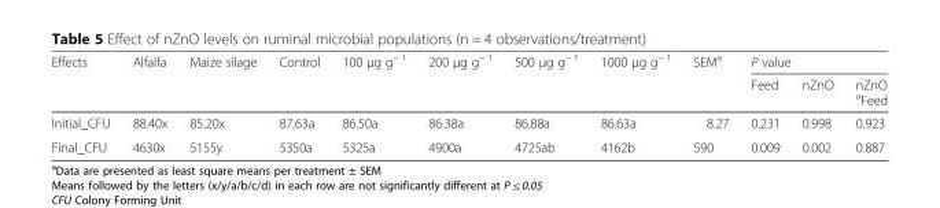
<table><thead><tr><td rowspan="2">Effects</td><td rowspan="2">Alfalfa</td><td rowspan="2">Maize silage</td><td rowspan="2">Control</td><td rowspan="2">100 μg g<sup>− 1</sup></td><td rowspan="2">200 μg g<sup>− 1</sup></td><td rowspan="2">500 μg g<sup>− 1</sup></td><td rowspan="2">1000 μg g<sup>− 1</sup></td><td rowspan="2">SEM<sup>a</sup></td><td colspan="3">P value</td></tr><tr><td>Feed</td><td>nZnO</td><td>nZnO <sup>a</sup>Feed</td></tr></thead><tbody><tr><td>Initial_CFU</td><td>88.40x</td><td>85.20x</td><td>87.63a</td><td>86.50a</td><td>86.38a</td><td>86.88a</td><td>86.63a</td><td>8.27</td><td>0.231</td><td>0.998</td><td>0.923</td></tr><tr><td>Final_CFU</td><td>4630x</td><td>5155y</td><td>5350a</td><td>5325a</td><td>4900a</td><td>4725ab</td><td>4162b</td><td>590</td><td>0.009</td><td>0.002</td><td>0.887</td></tr></tbody></table>